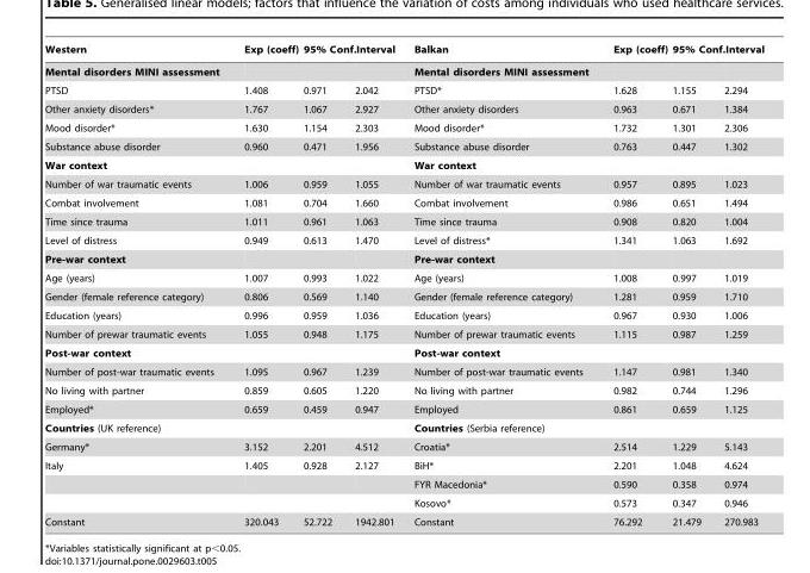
<table><thead><tr><td rowspan="2">Western Mental disorders MINI assessment</td><td rowspan="2">Exp (coeff)</td><td colspan="2">95% Conf.Interval</td><td rowspan="2">Balkan Mental disorders MINI assessment</td><td rowspan="2">Exp (coeff)</td><td colspan="2">95% Conf.Interval</td></tr><tr><td></td><td></td><td></td><td></td></tr></thead><tbody><tr><td>PTSD</td><td>1.408</td><td>0.971</td><td>2.042</td><td>PTSD*</td><td>1.628</td><td>1.155</td><td>2.294</td></tr><tr><td>Other anxiety disorders*</td><td>1.767</td><td>1.067</td><td>2.927</td><td>Other anxiety disorders</td><td>0.963</td><td>0.671</td><td>1.384</td></tr><tr><td>Mood disorder*</td><td>1.630</td><td>1.154</td><td>2.303</td><td>Mood disorder*</td><td>1.732</td><td>1.301</td><td>2.306</td></tr><tr><td>Substance abuse disorder</td><td>0.960</td><td>0.471</td><td>1.956</td><td>Substance abuse disorder</td><td>0.763</td><td>0.447</td><td>1.302</td></tr><tr><td>War context</td><td></td><td></td><td></td><td>War context</td><td></td><td></td><td></td></tr><tr><td>Number of war traumatic events</td><td>1.006</td><td>0.959</td><td>1.055</td><td>Number of war traumatic events</td><td>0.957</td><td>0.895</td><td>1.023</td></tr><tr><td>Combat involvement</td><td>1.081</td><td>0.704</td><td>1.660</td><td>Combat involvement</td><td>0.986</td><td>0.651</td><td>1.494</td></tr><tr><td>Time since trauma</td><td>1.011</td><td>0.961</td><td>1.063</td><td>Time since trauma</td><td>0.908</td><td>0.820</td><td>1.004</td></tr><tr><td>Level of distress</td><td>0.949</td><td>0.613</td><td>1.470</td><td>Level of distress*</td><td>1.341</td><td>1.063</td><td>1.692</td></tr><tr><td>Pre-war context</td><td></td><td></td><td></td><td>Pre-war context</td><td></td><td></td><td></td></tr><tr><td>Age (years)</td><td>1.007</td><td>0.993</td><td>1.022</td><td>Age (years)</td><td>1.008</td><td>0.997</td><td>1.019</td></tr><tr><td>Gender (female reference category)</td><td>0.806</td><td>0.569</td><td>1.140</td><td>Gender (female reference category)</td><td>1.281</td><td>0.959</td><td>1.710</td></tr><tr><td>Education (years)</td><td>0.996</td><td>0.959</td><td>1.036</td><td>Education (years)</td><td>0.967</td><td>0.930</td><td>1.006</td></tr><tr><td>Number of prewar traumatic events</td><td>1.055</td><td>0.948</td><td>1.175</td><td>Number of prewar traumatic events</td><td>1.115</td><td>0.987</td><td>1.259</td></tr><tr><td>Post-war context</td><td></td><td></td><td></td><td>Post-war context</td><td></td><td></td><td></td></tr><tr><td>Number of post-war traumatic events</td><td>1.095</td><td>0.967</td><td>1.239</td><td>Number of post-war traumatic events</td><td>1.147</td><td>0.981</td><td>1.340</td></tr><tr><td>No living with partner</td><td>0.859</td><td>0.605</td><td>1.220</td><td>No living with partner</td><td>0.982</td><td>0.744</td><td>1.296</td></tr><tr><td>Employed*</td><td>0.659</td><td>0.459</td><td>0.947</td><td>Employed</td><td>0.861</td><td>0.659</td><td>1.125</td></tr><tr><td>Countries (UK reference)</td><td></td><td></td><td></td><td>Countries (Serbia reference)</td><td></td><td></td><td></td></tr><tr><td>Germany*</td><td>3.152</td><td>2.201</td><td>4.512</td><td>Croatia*</td><td>2.514</td><td>1.229</td><td>5.143</td></tr><tr><td rowspan="3">Italy</td><td>1.405</td><td>0.928</td><td>2.127</td><td>BiH*</td><td>2.201</td><td>1.048</td><td>4.624</td></tr><tr><td></td><td></td><td></td><td>FYR Macedonia*</td><td>0.590</td><td>0.358</td><td>0.974</td></tr><tr><td></td><td></td><td></td><td>Kosovo*</td><td>0.573</td><td>0.347</td><td>0.946</td></tr><tr><td>Constant</td><td>320.043</td><td>52.722</td><td>1942.801</td><td>Constant</td><td>76.292</td><td>21.479</td><td>270.983</td></tr></tbody></table>